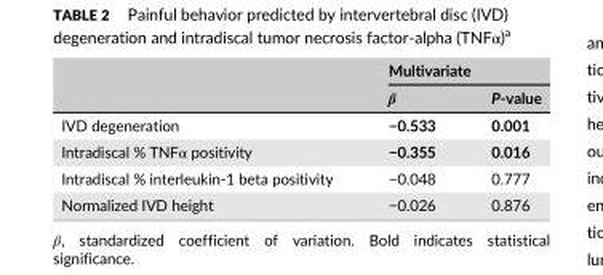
<table><thead><tr><td rowspan="2"></td><td colspan="2">Multivariate</td></tr><tr><td>β</td><td>P-value</td></tr></thead><tbody><tr><td>IVD degeneration</td><td>−0.533</td><td>0.001</td></tr><tr><td>Intradiscal % TNFα positivity</td><td>−0.355</td><td>0.016</td></tr><tr><td>Intradiscal % interleukin-1 beta positivity</td><td>−0.048</td><td>0.777</td></tr><tr><td>Normalized IVD height</td><td>−0.026</td><td>0.876</td></tr></tbody></table>